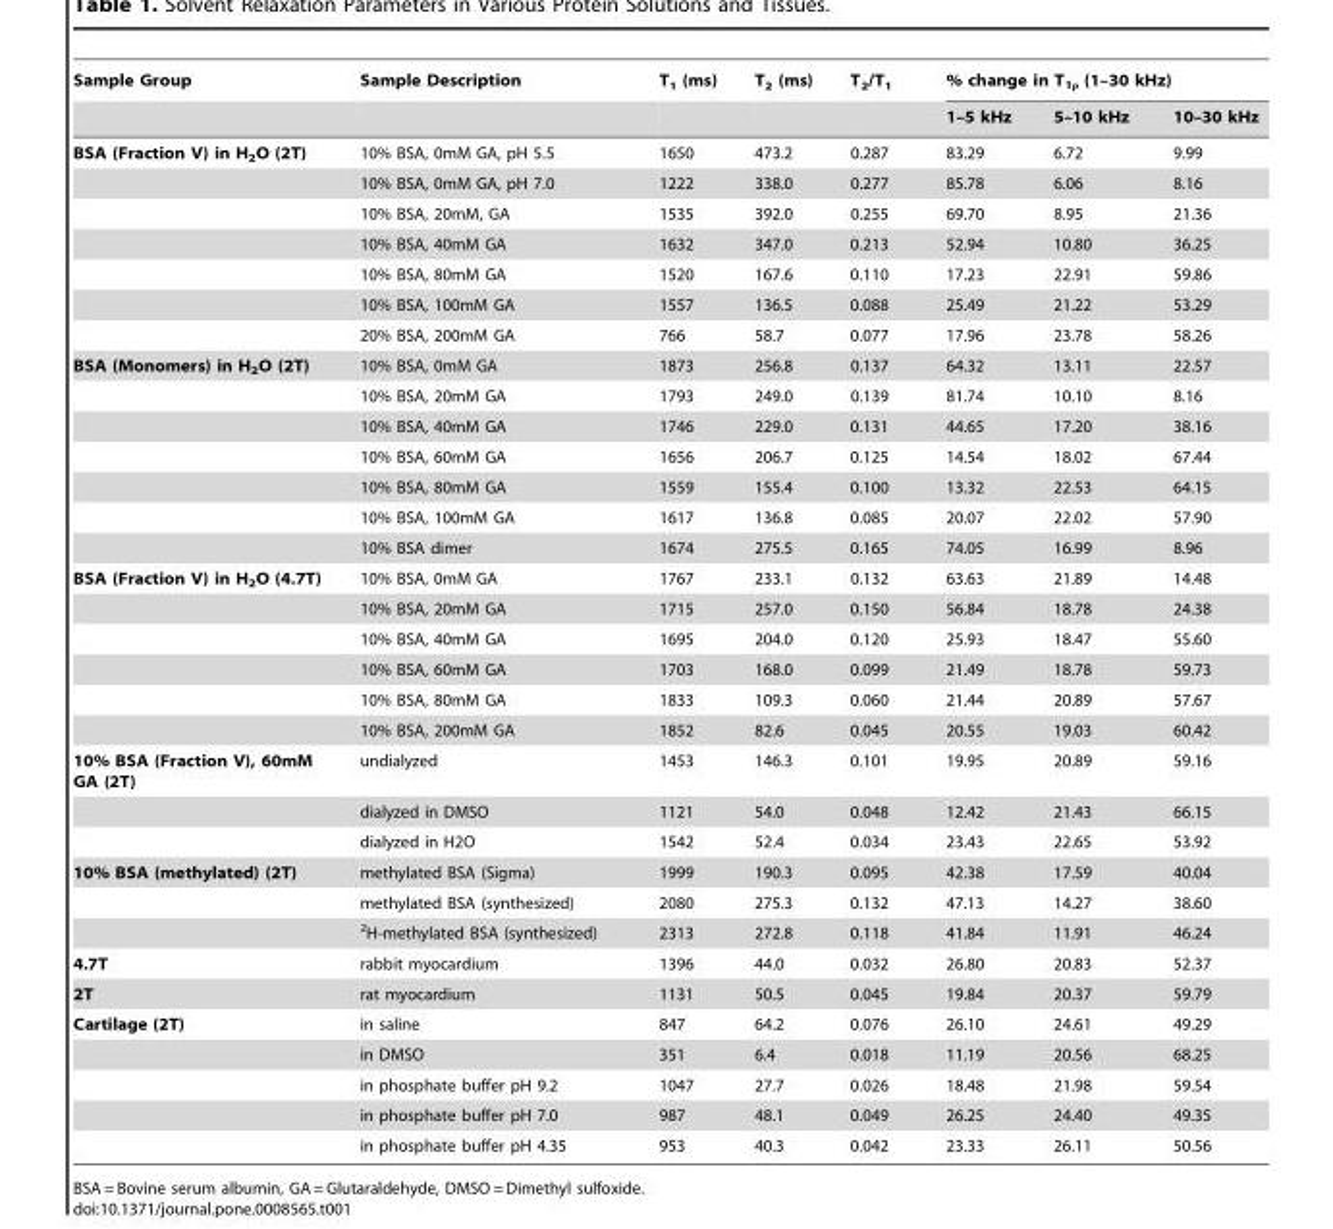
<table><thead><tr><td rowspan="2">Sample Group</td><td rowspan="2">Sample Description</td><td rowspan="2">T<sub>1</sub> (ms)</td><td rowspan="2">T<sub>2</sub> (ms)</td><td rowspan="2">T<sub>2</sub>/T<sub>1</sub></td><td colspan="3">% change in T<sub>1ρ</sub> (1–30 kHz)</td></tr><tr><td>1–5 kHz</td><td>5–10 kHz</td><td>10–30 kHz</td></tr></thead><tbody><tr><td rowspan="7">BSA (Fraction V) in H<sub>2</sub>O (2T)</td><td>10% BSA, 0mM GA, pH 5.5</td><td>1650</td><td>473.2</td><td>0.287</td><td>83.29</td><td>6.72</td><td>9.99</td></tr><tr><td>10% BSA, 0mM GA, pH 7.0</td><td>1222</td><td>338.0</td><td>0.277</td><td>85.78</td><td>6.06</td><td>8.16</td></tr><tr><td>10% BSA, 20mM, GA</td><td>1535</td><td>392.0</td><td>0.255</td><td>69.70</td><td>8.95</td><td>21.36</td></tr><tr><td>10% BSA, 40mM GA</td><td>1632</td><td>347.0</td><td>0.213</td><td>52.94</td><td>10.80</td><td>36.25</td></tr><tr><td>10% BSA, 80mM GA</td><td>1520</td><td>167.6</td><td>0.110</td><td>17.23</td><td>22.91</td><td>59.86</td></tr><tr><td>10% BSA, 100mM GA</td><td>1557</td><td>136.5</td><td>0.088</td><td>25.49</td><td>21.22</td><td>53.29</td></tr><tr><td>20% BSA, 200mM GA</td><td>766</td><td>58.7</td><td>0.077</td><td>17.96</td><td>23.78</td><td>58.26</td></tr><tr><td rowspan="7">BSA (Monomers) in H<sub>2</sub>O (2T)</td><td>10% BSA, 0mM GA</td><td>1873</td><td>256.8</td><td>0.137</td><td>64.32</td><td>13.11</td><td>22.57</td></tr><tr><td>10% BSA, 20mM GA</td><td>1793</td><td>249.0</td><td>0.139</td><td>81.74</td><td>10.10</td><td>8.16</td></tr><tr><td>10% BSA, 40mM GA</td><td>1746</td><td>229.0</td><td>0.131</td><td>44.65</td><td>17.20</td><td>38.16</td></tr><tr><td>10% BSA, 60mM GA</td><td>1656</td><td>206.7</td><td>0.125</td><td>14.54</td><td>18.02</td><td>67.44</td></tr><tr><td>10% BSA, 80mM GA</td><td>1559</td><td>155.4</td><td>0.100</td><td>13.32</td><td>22.53</td><td>64.15</td></tr><tr><td>10% BSA, 100mM GA</td><td>1617</td><td>136.8</td><td>0.085</td><td>20.07</td><td>22.02</td><td>57.90</td></tr><tr><td>10% BSA dimer</td><td>1674</td><td>275.5</td><td>0.165</td><td>74.05</td><td>16.99</td><td>8.96</td></tr><tr><td rowspan="6">BSA (Fraction V) in H<sub>2</sub>O (4.7T)</td><td>10% BSA, 0mM GA</td><td>1767</td><td>233.1</td><td>0.132</td><td>63.63</td><td>21.89</td><td>14.48</td></tr><tr><td>10% BSA, 20mM GA</td><td>1715</td><td>257.0</td><td>0.150</td><td>56.84</td><td>18.78</td><td>24.38</td></tr><tr><td>10% BSA, 40mM GA</td><td>1695</td><td>204.0</td><td>0.120</td><td>25.93</td><td>18.47</td><td>55.60</td></tr><tr><td>10% BSA, 60mM GA</td><td>1703</td><td>168.0</td><td>0.099</td><td>21.49</td><td>18.78</td><td>59.73</td></tr><tr><td>10% BSA, 80mM GA</td><td>1833</td><td>109.3</td><td>0.060</td><td>21.44</td><td>20.89</td><td>57.67</td></tr><tr><td>10% BSA, 200mM GA</td><td>1852</td><td>82.6</td><td>0.045</td><td>20.55</td><td>19.03</td><td>60.42</td></tr><tr><td rowspan="3">10% BSA (Fraction V), 60mM GA (2T)</td><td>undialyzed</td><td>1453</td><td>146.3</td><td>0.101</td><td>19.95</td><td>20.89</td><td>59.16</td></tr><tr><td>dialyzed in DMSO</td><td>1121</td><td>54.0</td><td>0.048</td><td>12.42</td><td>21.43</td><td>66.15</td></tr><tr><td>dialyzed in H2O</td><td>1542</td><td>52.4</td><td>0.034</td><td>23.43</td><td>22.65</td><td>53.92</td></tr><tr><td rowspan="3">10% BSA (methylated) (2T)</td><td>methylated BSA (Sigma)</td><td>1999</td><td>190.3</td><td>0.095</td><td>42.38</td><td>17.59</td><td>40.04</td></tr><tr><td>methylated BSA (synthesized)</td><td>2080</td><td>275.3</td><td>0.132</td><td>47.13</td><td>14.27</td><td>38.60</td></tr><tr><td><sup>2</sup>H-methylated BSA (synthesized)</td><td>2313</td><td>272.8</td><td>0.118</td><td>41.84</td><td>11.91</td><td>46.24</td></tr><tr><td>4.7T</td><td>rabbit myocardium</td><td>1396</td><td>44.0</td><td>0.032</td><td>26.80</td><td>20.83</td><td>52.37</td></tr><tr><td>2T</td><td>rat myocardium</td><td>1131</td><td>50.5</td><td>0.045</td><td>19.84</td><td>20.37</td><td>59.79</td></tr><tr><td rowspan="5">Cartilage (2T)</td><td>in saline</td><td>847</td><td>64.2</td><td>0.076</td><td>26.10</td><td>24.61</td><td>49.29</td></tr><tr><td>in DMSO</td><td>351</td><td>6.4</td><td>0.018</td><td>11.19</td><td>20.56</td><td>68.25</td></tr><tr><td>in phosphate buffer pH 9.2</td><td>1047</td><td>27.7</td><td>0.026</td><td>18.48</td><td>21.98</td><td>59.54</td></tr><tr><td>in phosphate buffer pH 7.0</td><td>987</td><td>48.1</td><td>0.049</td><td>26.25</td><td>24.40</td><td>49.35</td></tr><tr><td>in phosphate buffer pH 4.35</td><td>953</td><td>40.3</td><td>0.042</td><td>23.33</td><td>26.11</td><td>50.56</td></tr></tbody></table>